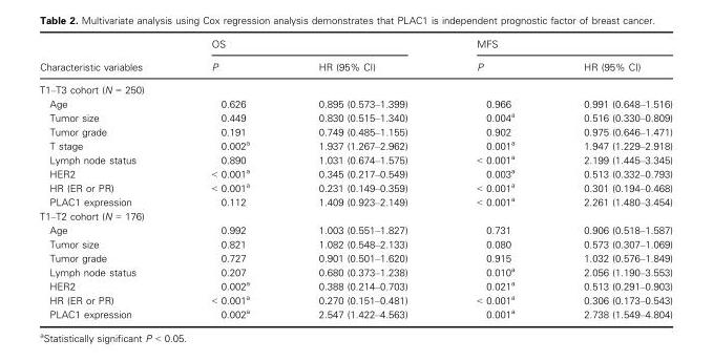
<table><thead><tr><td rowspan="2">Characteristic variables</td><td colspan="2">OS</td><td colspan="2">MFS</td></tr><tr><td>P</td><td>HR (95% CI)</td><td>P</td><td>HR (95% CI)</td></tr></thead><tbody><tr><td colspan="5">T1–T3 cohort (N = 250)</td></tr><tr><td>Age</td><td>0.626</td><td>0.895 (0.573–1.399)</td><td>0.966</td><td>0.991 (0.648–1.516)</td></tr><tr><td>Tumor size</td><td>0.449</td><td>0.830 (0.515–1.340)</td><td>0.004<sup>a</sup></td><td>0.516 (0.330–0.809)</td></tr><tr><td>Tumor grade</td><td>0.191</td><td>0.749 (0.485–1.155)</td><td>0.902</td><td>0.975 (0.646–1.471)</td></tr><tr><td>T stage</td><td>0.002<sup>a</sup></td><td>1.937 (1.267–2.962)</td><td>0.001<sup>a</sup></td><td>1.947 (1.229–2.918)</td></tr><tr><td>Lymph node status</td><td>0.890</td><td>1.031 (0.674–1.575)</td><td>&lt; 0.001<sup>a</sup></td><td>2.199 (1.445–3.345)</td></tr><tr><td>HER2</td><td>&lt; 0.001<sup>a</sup></td><td>0.345 (0.217–0.549)</td><td>0.003<sup>a</sup></td><td>0.513 (0.332–0.793)</td></tr><tr><td>HR (ER or PR)</td><td>&lt; 0.001<sup>a</sup></td><td>0.231 (0.149–0.359)</td><td>&lt; 0.001<sup>a</sup></td><td>0.301 (0.194–0.468)</td></tr><tr><td>PLAC1 expression</td><td>0.112</td><td>1.409 (0.923–2.149)</td><td>&lt; 0.001<sup>a</sup></td><td>2.261 (1.480–3.454)</td></tr><tr><td colspan="5">T1–T2 cohort (N = 176)</td></tr><tr><td>Age</td><td>0.992</td><td>1.003 (0.551–1.827)</td><td>0.731</td><td>0.906 (0.518–1.587)</td></tr><tr><td>Tumor size</td><td>0.821</td><td>1.082 (0.548–2.133)</td><td>0.080</td><td>0.573 (0.307–1.069)</td></tr><tr><td>Tumor grade</td><td>0.727</td><td>0.901 (0.501–1.620)</td><td>0.915</td><td>1.032 (0.576–1.849)</td></tr><tr><td>Lymph node status</td><td>0.207</td><td>0.680 (0.373–1.238)</td><td>0.010<sup>a</sup></td><td>2.056 (1.190–3.553)</td></tr><tr><td>HER2</td><td>0.002<sup>a</sup></td><td>0.388 (0.214–0.703)</td><td>0.021<sup>a</sup></td><td>0.513 (0.291–0.903)</td></tr><tr><td>HR (ER or PR)</td><td>&lt; 0.001<sup>a</sup></td><td>0.270 (0.151–0.481)</td><td>&lt; 0.001<sup>a</sup></td><td>0.306 (0.173–0.543)</td></tr><tr><td>PLAC1 expression</td><td>0.002<sup>a</sup></td><td>2.547 (1.422–4.563)</td><td>0.001<sup>a</sup></td><td>2.738 (1.549–4.804)</td></tr></tbody></table>